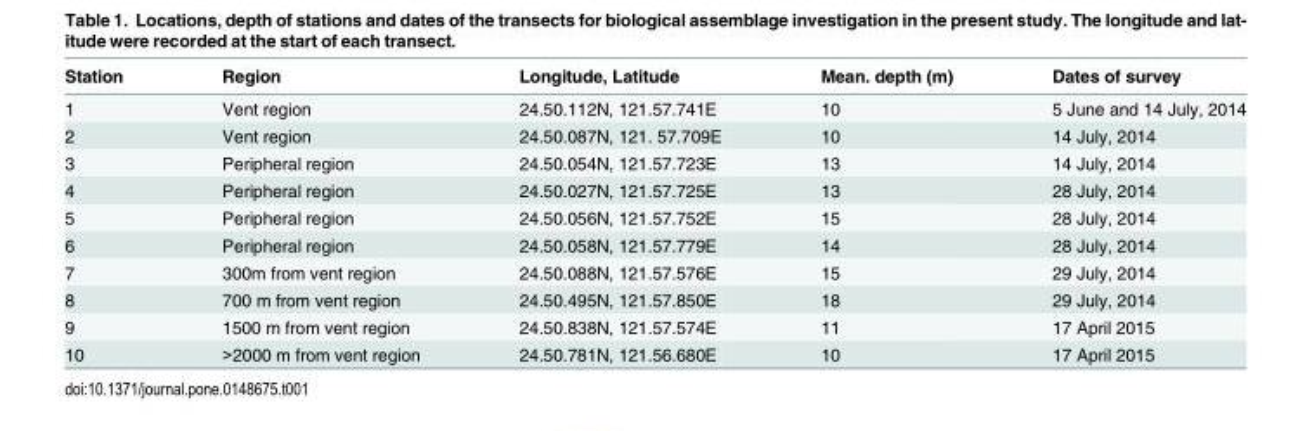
<table><thead><tr><td>Station</td><td>Region</td><td>Longitude, Latitude</td><td>Mean. depth (m)</td><td>Dates of survey</td></tr></thead><tbody><tr><td>1</td><td>Vent region</td><td>24.50.112N, 121.57.741E</td><td>10</td><td>5 June and 14 July, 2014</td></tr><tr><td>2</td><td>Vent region</td><td>24.50.087N, 121. 57.709E</td><td>10</td><td>14 July, 2014</td></tr><tr><td>3</td><td>Peripheral region</td><td>24.50.054N, 121.57.723E</td><td>13</td><td>14 July, 2014</td></tr><tr><td>4</td><td>Peripheral region</td><td>24.50.027N, 121.57.725E</td><td>13</td><td>28 July, 2014</td></tr><tr><td>5</td><td>Peripheral region</td><td>24.50.056N, 121.57.752E</td><td>15</td><td>28 July, 2014</td></tr><tr><td>6</td><td>Peripheral region</td><td>24.50.058N, 121.57.779E</td><td>14</td><td>28 July, 2014</td></tr><tr><td>7</td><td>300m from vent region</td><td>24.50.088N, 121.57.576E</td><td>15</td><td>29 July, 2014</td></tr><tr><td>8</td><td>700 m from vent region</td><td>24.50.495N, 121.57.850E</td><td>18</td><td>29 July, 2014</td></tr><tr><td>9</td><td>1500 m from vent region</td><td>24.50.838N, 121.57.574E</td><td>11</td><td>17 April 2015</td></tr><tr><td>10</td><td>&gt;2000 m from vent region</td><td>24.50.781N, 121.56.680E</td><td>10</td><td>17 April 2015</td></tr></tbody></table>